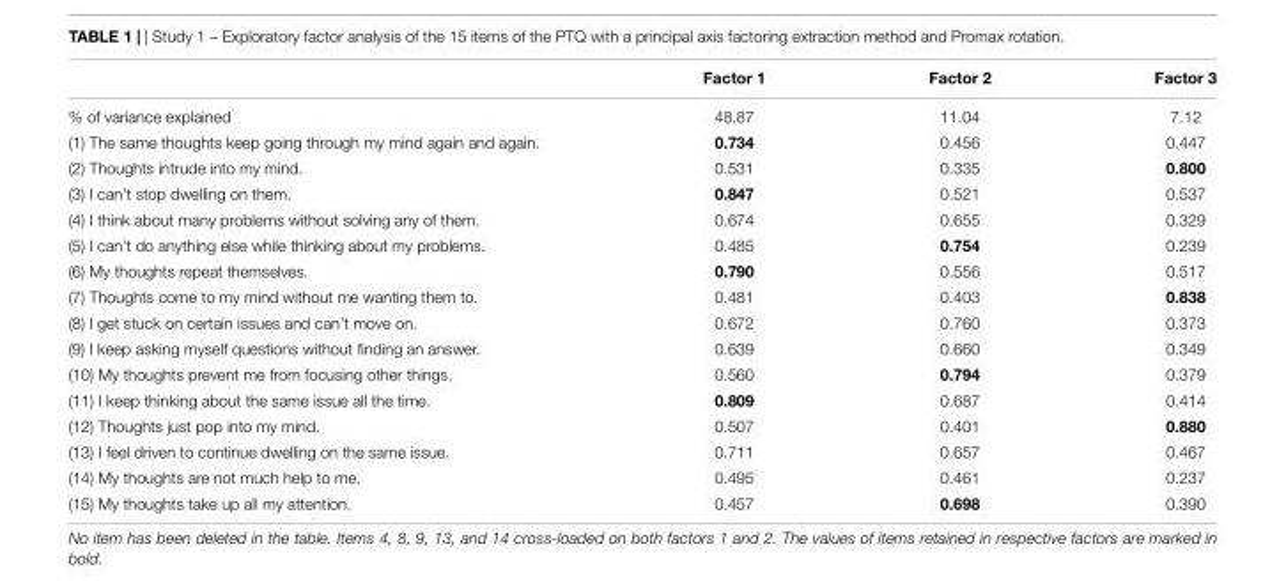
<table><thead><tr><td></td><td>Factor 1</td><td>Factor 2</td><td>Factor 3</td></tr></thead><tbody><tr><td>% of variance explained</td><td>48.87</td><td>11.04</td><td>7.12</td></tr><tr><td>(1) The same thoughts keep going through my mind again and again.</td><td>0.734</td><td>0.456</td><td>0.447</td></tr><tr><td>(2) Thoughts intrude into my mind.</td><td>0.531</td><td>0.335</td><td>0.800</td></tr><tr><td>(3) I can’t stop dwelling on them.</td><td>0.847</td><td>0.521</td><td>0.537</td></tr><tr><td>(4) I think about many problems without solving any of them.</td><td>0.674</td><td>0.655</td><td>0.329</td></tr><tr><td>(5) I can’t do anything else while thinking about my problems.</td><td>0.485</td><td>0.754</td><td>0.239</td></tr><tr><td>(6) My thoughts repeat themselves.</td><td>0.790</td><td>0.556</td><td>0.517</td></tr><tr><td>(7) Thoughts come to my mind without me wanting them to.</td><td>0.481</td><td>0.403</td><td>0.838</td></tr><tr><td>(8) I get stuck on certain issues and can’t move on.</td><td>0.672</td><td>0.760</td><td>0.373</td></tr><tr><td>(9) I keep asking myself questions without finding an answer.</td><td>0.639</td><td>0.660</td><td>0.349</td></tr><tr><td>(10) My thoughts prevent me from focusing other things.</td><td>0.560</td><td>0.794</td><td>0.379</td></tr><tr><td>(11) I keep thinking about the same issue all the time.</td><td>0.809</td><td>0.687</td><td>0.414</td></tr><tr><td>(12) Thoughts just pop into my mind.</td><td>0.507</td><td>0.401</td><td>0.880</td></tr><tr><td>(13) I feel driven to continue dwelling on the same issue.</td><td>0.711</td><td>0.657</td><td>0.467</td></tr><tr><td>(14) My thoughts are not much help to me.</td><td>0.495</td><td>0.461</td><td>0.237</td></tr><tr><td>(15) My thoughts take up all my attention.</td><td>0.457</td><td>0.698</td><td>0.390</td></tr></tbody></table>